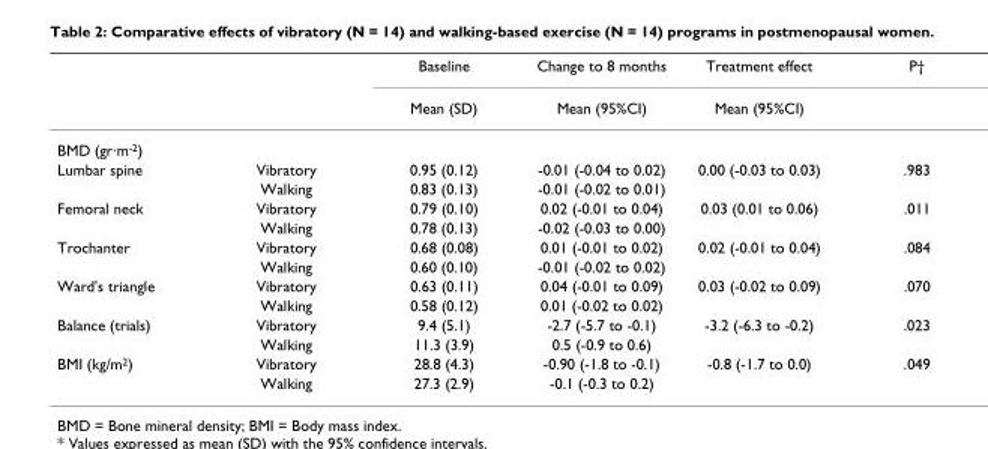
<table><thead><tr><td rowspan="2"></td><td rowspan="2"></td><td rowspan="2">Baseline Mean (SD)</td><td rowspan="2">Change to 8 months Mean (95%CI)</td><td rowspan="2">Treatment effect Mean (95%CI)</td><td rowspan="2">P†</td></tr><tr></tr></thead><tbody><tr><td colspan="6">BMD (gr·m-2)</td></tr><tr><td rowspan="2">Lumbar spine</td><td>Vibratory</td><td>0.95 (0.12)</td><td>-0.01 (-0.04 to 0.02)</td><td>0.00 (-0.03 to 0.03)</td><td>.983</td></tr><tr><td>Walking</td><td>0.83 (0.13)</td><td>-0.01 (-0.02 to 0.01)</td><td></td><td></td></tr><tr><td rowspan="2">Femoral neck</td><td>Vibratory</td><td>0.79 (0.10)</td><td>0.02 (-0.01 to 0.04)</td><td>0.03 (0.01 to 0.06)</td><td>.011</td></tr><tr><td>Walking</td><td>0.78 (0.13)</td><td>-0.02 (-0.03 to 0.00)</td><td></td><td></td></tr><tr><td rowspan="2">Trochanter</td><td>Vibratory</td><td>0.68 (0.08)</td><td>0.01 (-0.01 to 0.02)</td><td>0.02 (-0.01 to 0.04)</td><td>.084</td></tr><tr><td>Walking</td><td>0.60 (0.10)</td><td>-0.01 (-0.02 to 0.02)</td><td></td><td></td></tr><tr><td rowspan="2">Ward&#x27;s triangle</td><td>Vibratory</td><td>0.63 (0.11)</td><td>0.04 (-0.01 to 0.09)</td><td>0.03 (-0.02 to 0.09)</td><td>.070</td></tr><tr><td>Walking</td><td>0.58 (0.12)</td><td>0.01 (-0.02 to 0.02)</td><td></td><td></td></tr><tr><td rowspan="2">Balance (trials)</td><td>Vibratory</td><td>9.4 (5.1)</td><td>-2.7 (-5.7 to -0.1)</td><td>-3.2 (-6.3 to -0.2)</td><td>.023</td></tr><tr><td>Walking</td><td>11.3 (3.9)</td><td>0.5 (-0.9 to 0.6)</td><td></td><td></td></tr><tr><td rowspan="2">BMI (kg/m2)</td><td>Vibratory</td><td>28.8 (4.3)</td><td>-0.90 (-1.8 to -0.1)</td><td>-0.8 (-1.7 to 0.0)</td><td>.049</td></tr><tr><td>Walking</td><td>27.3 (2.9)</td><td>-0.1 (-0.3 to 0.2)</td><td></td><td></td></tr></tbody></table>